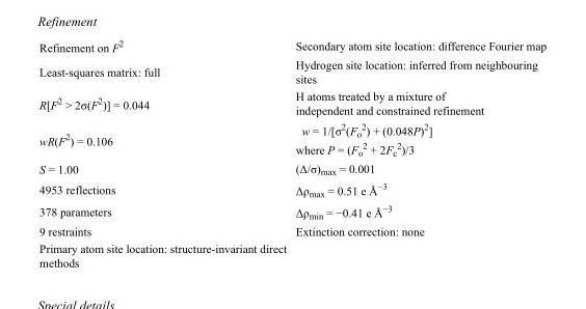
<table><tbody><tr><td>Refinement on F<sup>2</sup></td><td>Secondary atom site location: difference Fourier map</td></tr><tr><td>Least-squares matrix: full</td><td>Hydrogen site location: inferred from neighbouring sites</td></tr><tr><td>R[F<sup>2</sup> &gt; 2σ(F<sup>2</sup>)] = 0.044</td><td>H atoms treated by a mixture of independent and constrained refinement</td></tr><tr><td>wR(F<sup>2</sup>) = 0.106</td><td>w = 1/[σ<sup>2</sup>(F<sub>o</sub> <sup>2</sup>) + (0.048P)<sup>2</sup>] where P = (F<sub>o</sub> <sup>2</sup> + 2F<sub>c</sub> <sup>2</sup>)/3</td></tr><tr><td>S = 1.00</td><td>(Δ/σ)<sub>max</sub> = 0.001</td></tr><tr><td>4953 reflections</td><td>Δρ<sub>max</sub> = 0.51 e Å<sup>−3</sup></td></tr><tr><td>378 parameters</td><td>Δρ<sub>min</sub> = −0.41 e Å<sup>−3</sup></td></tr><tr><td>9 restraints</td><td>Extinction correction: none</td></tr><tr><td>Primary atom site location: structure-invariant direct methods</td><td></td></tr></tbody></table>